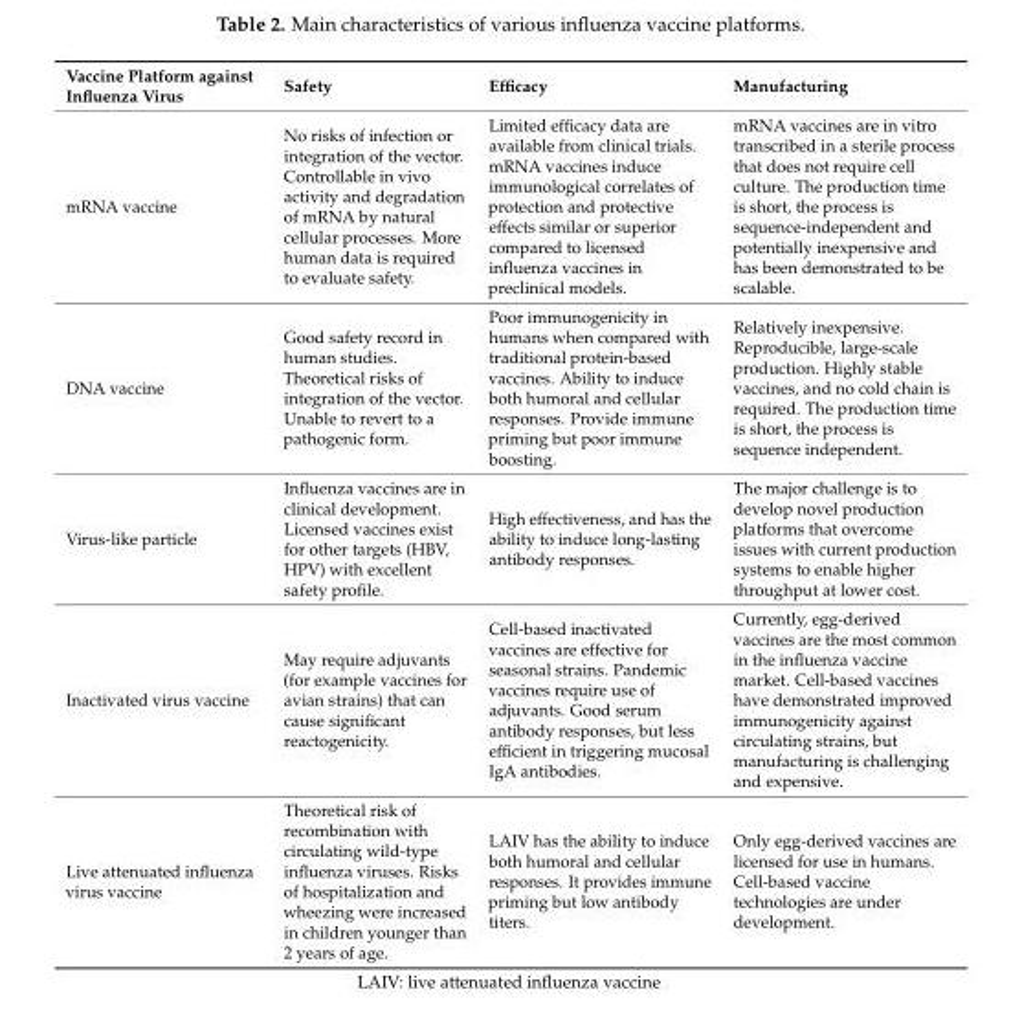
<table><thead><tr><td>Vaccine Platform against Influenza Virus</td><td>Safety</td><td>Efficacy</td><td>Manufacturing</td></tr></thead><tbody><tr><td>mRNA vaccine</td><td>No risks of infection or integration of the vector. Controllable in vivo activity and degradation of mRNA by natural cellular processes. More human data is required to evaluate safety.</td><td>Limited efficacy data are available from clinical trials. mRNA vaccines induce immunological correlates of protection and protective effects similar or superior compared to licensed influenza vaccines in preclinical models.</td><td>mRNA vaccines are in vitro transcribed in a sterile process that does not require cell culture. The production time is short, the process is sequence-independent and potentially inexpensive and has been demonstrated to be scalable.</td></tr><tr><td>DNA vaccine</td><td>Good safety record in human studies. Theoretical risks of integration of the vector. Unable to revert to a pathogenic form.</td><td>Poor immunogenicity in humans when compared with traditional protein-based vaccines. Ability to induce both humoral and cellular responses. Provide immune priming but poor immune boosting.</td><td>Relatively inexpensive. Reproducible, large-scale production. Highly stable vaccines, and no cold chain is required. The production time is short, the process is sequence independent.</td></tr><tr><td>Virus-like particle</td><td>Influenza vaccines are in clinical development. Licensed vaccines exist for other targets (HBV, HPV) with excellent safety profile.</td><td>High effectiveness, and has the ability to induce long-lasting antibody responses.</td><td>The major challenge is to develop novel production platforms that overcome issues with current production systems to enable higher throughput at lower cost.</td></tr><tr><td>Inactivated virus vaccine</td><td>May require adjuvants (for example vaccines for avian strains) that can cause significant reactogenicity.</td><td>Cell-based inactivated vaccines are effective for seasonal strains. Pandemic vaccines require use of adjuvants. Good serum antibody responses, but less efficient in triggering mucosal IgA antibodies.</td><td>Currently, egg-derived vaccines are the most common in the influenza vaccine market. Cell-based vaccines have demonstrated improved immunogenicity against circulating strains, but manufacturing is challenging and expensive.</td></tr><tr><td>Live attenuated influenza virus vaccine</td><td>Theoretical risk of recombination with circulating wild-type influenza viruses. Risks of hospitalization and wheezing were increased in children younger than 2 years of age.</td><td>LAIV has the ability to induce both humoral and cellular responses. It provides immune priming but low antibody titers.</td><td>Only egg-derived vaccines are licensed for use in humans. Cell-based vaccine technologies are under development.</td></tr></tbody></table>